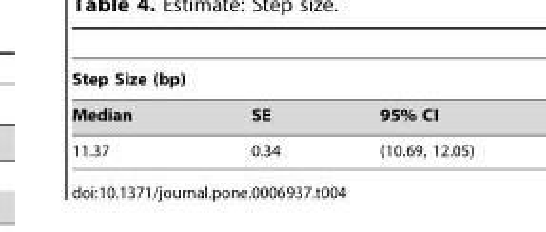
<table><thead><tr><td colspan="3">Step Size (bp)</td></tr><tr><td>Median</td><td>SE</td><td>95% CI</td></tr></thead><tbody><tr><td>11.37</td><td>0.34</td><td>(10.69, 12.05)</td></tr></tbody></table>